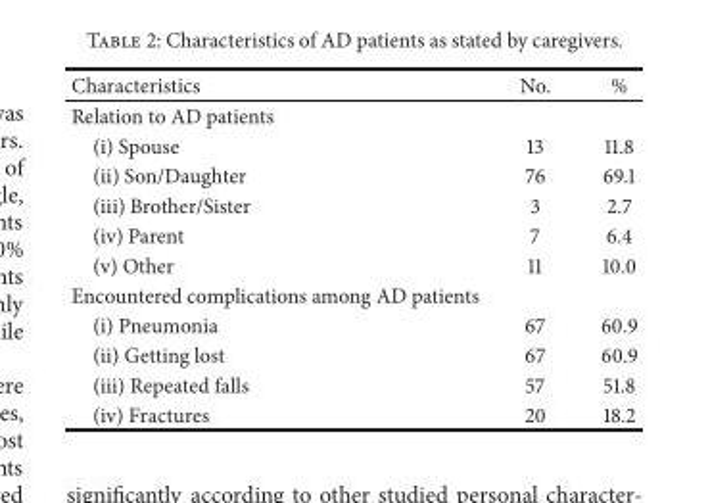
<table><thead><tr><td>Characteristics</td><td>No.</td><td>%</td></tr></thead><tbody><tr><td colspan="3">Relation to AD patients</td></tr><tr><td>(i) Spouse</td><td>13</td><td>11.8</td></tr><tr><td>(ii) Son/Daughter</td><td>76</td><td>69.1</td></tr><tr><td>(iii) Brother/Sister</td><td>3</td><td>2.7</td></tr><tr><td>(iv) Parent</td><td>7</td><td>6.4</td></tr><tr><td>(v) Other</td><td>11</td><td>10.0</td></tr><tr><td colspan="3">Encountered complications among AD patients</td></tr><tr><td>(i) Pneumonia</td><td>67</td><td>60.9</td></tr><tr><td>(ii) Getting lost</td><td>67</td><td>60.9</td></tr><tr><td>(iii) Repeated falls</td><td>57</td><td>51.8</td></tr><tr><td>(iv) Fractures</td><td>20</td><td>18.2</td></tr></tbody></table>